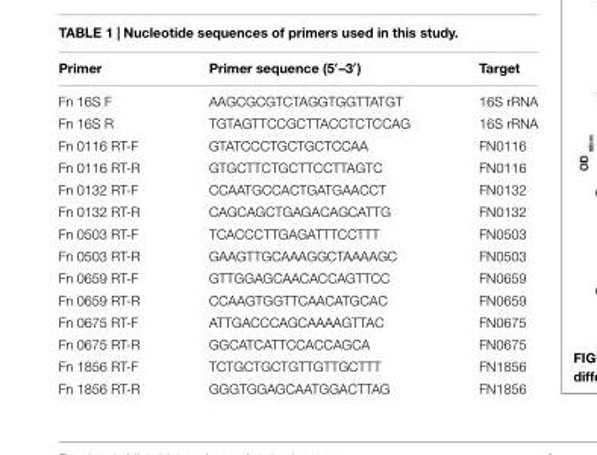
<table><thead><tr><td>Primer</td><td>Primer sequence (5′–3′)</td><td>Target</td></tr></thead><tbody><tr><td>Fn 16S F</td><td>AAGCGCGTCTAGGTGGTTATGT</td><td>16S rRNA</td></tr><tr><td>Fn 16S R</td><td>TGTAGTTCCGCTTACCTCTCCAG</td><td>16S rRNA</td></tr><tr><td>Fn 0116 RT-F</td><td>GTATCCCTGCTGCTCCAA</td><td>FN0116</td></tr><tr><td>Fn 0116 RT-R</td><td>GTGCTTCTGCTTCCTTAGTC</td><td>FN0116</td></tr><tr><td>Fn 0132 RT-F</td><td>CCAATGCCACTGATGAACCT</td><td>FN0132</td></tr><tr><td>Fn 0132 RT-R</td><td>CAGCAGCTGAGACAGCATTG</td><td>FN0132</td></tr><tr><td>Fn 0503 RT-F</td><td>TCACCCTTGAGATTTCCTTT</td><td>FN0503</td></tr><tr><td>Fn 0503 RT-R</td><td>GAAGTTGCAAAGGCTAAAAGC</td><td>FN0503</td></tr><tr><td>Fn 0659 RT-F</td><td>GTTGGAGCAACACCAGTTCC</td><td>FN0659</td></tr><tr><td>Fn 0659 RT-R</td><td>CCAAGTGGTTCAACATGCAC</td><td>FN0659</td></tr><tr><td>Fn 0675 RT-F</td><td>ATTGACCCAGCAAAAGTTAC</td><td>FN0675</td></tr><tr><td>Fn 0675 RT-R</td><td>GGCATCATTCCACCAGCA</td><td>FN0675</td></tr><tr><td>Fn 1856 RT-F</td><td>TCTGCTGCTGTTGTTGCTTT</td><td>FN1856</td></tr><tr><td>Fn 1856 RT-R</td><td>GGGTGGAGCAATGGACTTAG</td><td>FN1856</td></tr></tbody></table>